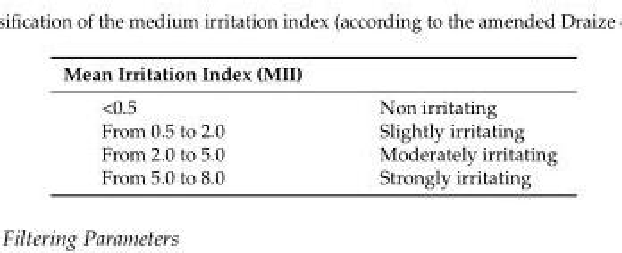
<table><thead><tr><td>Mean Irritation Index (MII)</td><td></td></tr></thead><tbody><tr><td>&lt;0.5</td><td>Non irritating</td></tr><tr><td>From 0.5 to 2.0</td><td>Slightly irritating</td></tr><tr><td>From 2.0 to 5.0</td><td>Moderately irritating</td></tr><tr><td>From 5.0 to 8.0</td><td>Strongly irritating</td></tr></tbody></table>